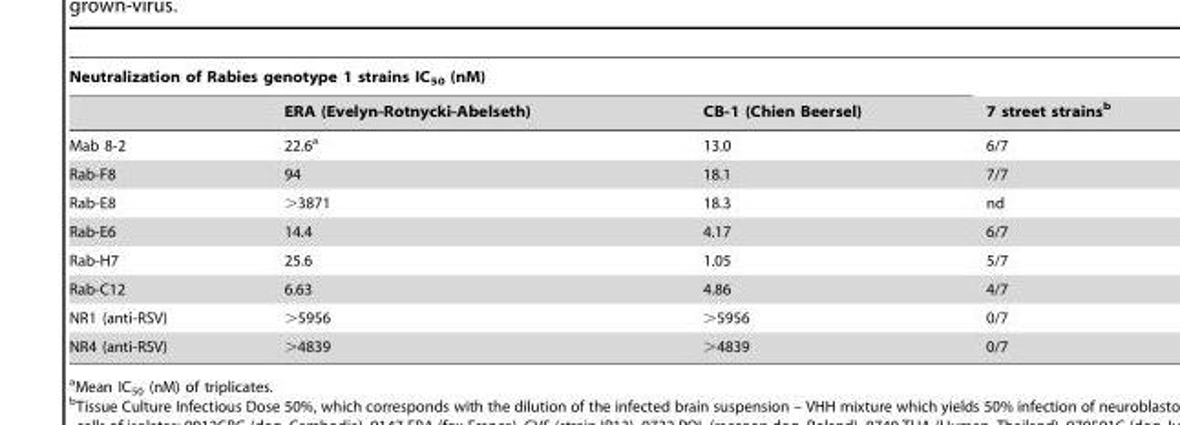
<table><thead><tr><td colspan="3">Neutralization of Rabies genotype 1 strains IC<sub>50</sub> (nM)</td><td rowspan="2">7 street strains<sup>b</sup></td></tr><tr><td></td><td>ERA (Evelyn-Rotnycki-Abelseth)</td><td>CB-1 (Chien Beersel)</td></tr></thead><tbody><tr><td>Mab 8-2</td><td>22.6<sup>a</sup></td><td>13.0</td><td>6/7</td></tr><tr><td>Rab-F8</td><td>94</td><td>18.1</td><td>7/7</td></tr><tr><td>Rab-E8</td><td>&gt;3871</td><td>18.3</td><td>nd</td></tr><tr><td>Rab-E6</td><td>14.4</td><td>4.17</td><td>6/7</td></tr><tr><td>Rab-H7</td><td>25.6</td><td>1.05</td><td>5/7</td></tr><tr><td>Rab-C12</td><td>6.63</td><td>4.86</td><td>4/7</td></tr><tr><td>NR1 (anti-RSV)</td><td>&gt;5956</td><td>&gt;5956</td><td>0/7</td></tr><tr><td>NR4 (anti-RSV)</td><td>&gt;4839</td><td>&gt;4839</td><td>0/7</td></tr></tbody></table>